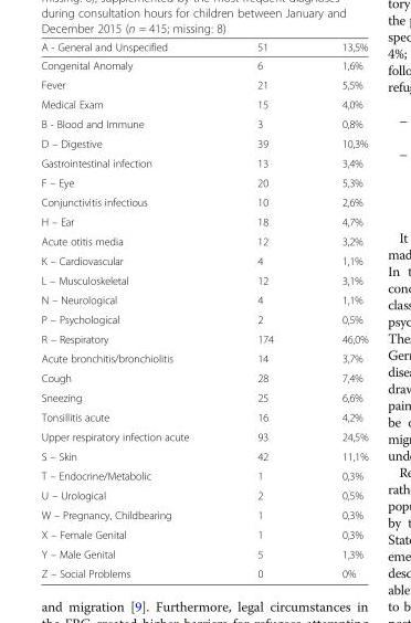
<table><thead><tr><td>A - General and Unspecified</td><td>51</td><td>13,5%</td></tr></thead><tbody><tr><td>Congenital Anomaly</td><td>6</td><td>1,6%</td></tr><tr><td>Fever</td><td>21</td><td>5,5%</td></tr><tr><td>Medical Exam</td><td>15</td><td>4,0%</td></tr><tr><td>B - Blood and Immune</td><td>3</td><td>0,8%</td></tr><tr><td>D – Digestive</td><td>39</td><td>10,3%</td></tr><tr><td>Gastrointestinal infection</td><td>13</td><td>3,4%</td></tr><tr><td>F – Eye</td><td>20</td><td>5,3%</td></tr><tr><td>Conjunctivitis infectious</td><td>10</td><td>2,6%</td></tr><tr><td>H – Ear</td><td>18</td><td>4,7%</td></tr><tr><td>Acute otitis media</td><td>12</td><td>3,2%</td></tr><tr><td>K – Cardiovascular</td><td>4</td><td>1,1%</td></tr><tr><td>L – Musculoskeletal</td><td>12</td><td>3,1%</td></tr><tr><td>N – Neurological</td><td>4</td><td>1,1%</td></tr><tr><td>P – Psychological</td><td>2</td><td>0,5%</td></tr><tr><td>R – Respiratory</td><td>174</td><td>46,0%</td></tr><tr><td>Acute bronchitis/bronchiolitis</td><td>14</td><td>3,7%</td></tr><tr><td>Cough</td><td>28</td><td>7,4%</td></tr><tr><td>Sneezing</td><td>25</td><td>6,6%</td></tr><tr><td>Tonsillitis acute</td><td>16</td><td>4,2%</td></tr><tr><td>Upper respiratory infection acute</td><td>93</td><td>24,5%</td></tr><tr><td>S – Skin</td><td>42</td><td>11,1%</td></tr><tr><td>T – Endocrine/Metabolic</td><td>1</td><td>0,3%</td></tr><tr><td>U – Urological</td><td>2</td><td>0,5%</td></tr><tr><td>W – Pregnancy, Childbearing</td><td>1</td><td>0,3%</td></tr><tr><td>X – Female Genital</td><td>1</td><td>0,3%</td></tr><tr><td>Y – Male Genital</td><td>5</td><td>1,3%</td></tr><tr><td>Z – Social Problems</td><td>0</td><td>0%</td></tr></tbody></table>